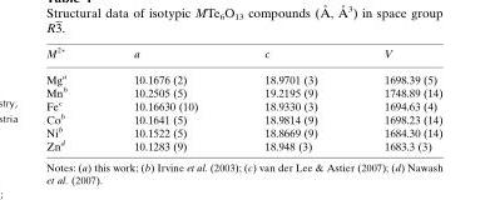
<table><thead><tr><td>M<sup>2+</sup></td><td>a</td><td>c</td><td>V</td></tr></thead><tbody><tr><td>Mga</td><td>10.1676 (2)</td><td>18.9701 (3)</td><td>1698.39 (5)</td></tr><tr><td>Mnb</td><td>10.2505 (5)</td><td>19.2195 (9)</td><td>1748.89 (14)</td></tr><tr><td>Fec</td><td>10.16630 (10)</td><td>18.9330 (3)</td><td>1694.63 (4)</td></tr><tr><td>Cob</td><td>10.1641 (5)</td><td>18.9814 (9)</td><td>1698.23 (14)</td></tr><tr><td>Nib</td><td>10.1522 (5)</td><td>18.8669 (9)</td><td>1684.30 (14)</td></tr><tr><td>Znd</td><td>10.1283 (9)</td><td>18.948 (3)</td><td>1683.3 (3)</td></tr></tbody></table>